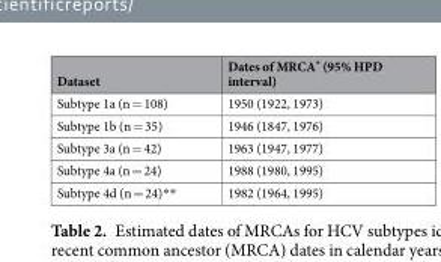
<table><thead><tr><td>Dataset</td><td>Dates of MRCA* (95% HPD interval)</td></tr></thead><tbody><tr><td>Subtype 1a (n = 108)</td><td>1950 (1922, 1973)</td></tr><tr><td>Subtype 1b (n = 35)</td><td>1946 (1847, 1976)</td></tr><tr><td>Subtype 3a (n = 42)</td><td>1963 (1947, 1977)</td></tr><tr><td>Subtype 4a (n = 24)</td><td>1988 (1980, 1995)</td></tr><tr><td>Subtype 4d (n = 24)**</td><td>1982 (1964, 1995)</td></tr></tbody></table>